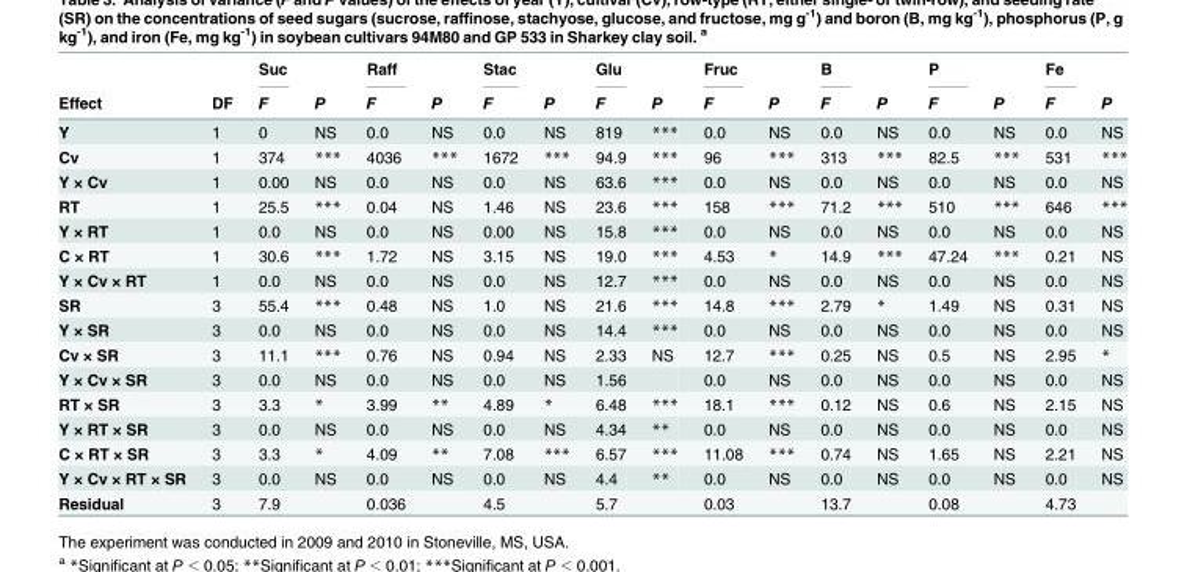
<table><thead><tr><td rowspan="2">Effect</td><td rowspan="2">DF</td><td rowspan="2">Suc F</td><td rowspan="2">P</td><td rowspan="2">Raff F</td><td rowspan="2">P</td><td rowspan="2">Stac F</td><td rowspan="2">P</td><td rowspan="2">Glu F</td><td rowspan="2">P</td><td rowspan="2">Fruc F</td><td rowspan="2">P</td><td rowspan="2">B F</td><td rowspan="2">P</td><td rowspan="2">P F</td><td rowspan="2">P</td><td rowspan="2">Fe F</td><td rowspan="2">P</td></tr><tr></tr></thead><tbody><tr><td>Y</td><td>1</td><td>0</td><td>NS</td><td>0.0</td><td>NS</td><td>0.0</td><td>NS</td><td>819</td><td>***</td><td>0.0</td><td>NS</td><td>0.0</td><td>NS</td><td>0.0</td><td>NS</td><td>0.0</td><td>NS</td></tr><tr><td>Cv</td><td>1</td><td>374</td><td>***</td><td>4036</td><td>***</td><td>1672</td><td>***</td><td>94.9</td><td>***</td><td>96</td><td>***</td><td>313</td><td>***</td><td>82.5</td><td>***</td><td>531</td><td>***</td></tr><tr><td>Y × Cv</td><td>1</td><td>0.00</td><td>NS</td><td>0.0</td><td>NS</td><td>0.0</td><td>NS</td><td>63.6</td><td>***</td><td>0.0</td><td>NS</td><td>0.0</td><td>NS</td><td>0.0</td><td>NS</td><td>0.0</td><td>NS</td></tr><tr><td>RT</td><td>1</td><td>25.5</td><td>***</td><td>0.04</td><td>NS</td><td>1.46</td><td>NS</td><td>23.6</td><td>***</td><td>158</td><td>***</td><td>71.2</td><td>***</td><td>510</td><td>***</td><td>646</td><td>***</td></tr><tr><td>Y × RT</td><td>1</td><td>0.0</td><td>NS</td><td>0.0</td><td>NS</td><td>0.00</td><td>NS</td><td>15.8</td><td>***</td><td>0.0</td><td>NS</td><td>0.0</td><td>NS</td><td>0.0</td><td>NS</td><td>0.0</td><td>NS</td></tr><tr><td>C × RT</td><td>1</td><td>30.6</td><td>***</td><td>1.72</td><td>NS</td><td>3.15</td><td>NS</td><td>19.0</td><td>***</td><td>4.53</td><td>*</td><td>14.9</td><td>***</td><td>47.24</td><td>***</td><td>0.21</td><td>NS</td></tr><tr><td>Y × Cv × RT</td><td>1</td><td>0.0</td><td>NS</td><td>0.0</td><td>NS</td><td>0.0</td><td>NS</td><td>12.7</td><td>***</td><td>0.0</td><td>NS</td><td>0.0</td><td>NS</td><td>0.0</td><td>NS</td><td>0.0</td><td>NS</td></tr><tr><td>SR</td><td>3</td><td>55.4</td><td>***</td><td>0.48</td><td>NS</td><td>1.0</td><td>NS</td><td>21.6</td><td>***</td><td>14.8</td><td>***</td><td>2.79</td><td>*</td><td>1.49</td><td>NS</td><td>0.31</td><td>NS</td></tr><tr><td>Y × SR</td><td>3</td><td>0.0</td><td>NS</td><td>0.0</td><td>NS</td><td>0.0</td><td>NS</td><td>14.4</td><td>***</td><td>0.0</td><td>NS</td><td>0.0</td><td>NS</td><td>0.0</td><td>NS</td><td>0.0</td><td>NS</td></tr><tr><td>Cv × SR</td><td>3</td><td>11.1</td><td>***</td><td>0.76</td><td>NS</td><td>0.94</td><td>NS</td><td>2.33</td><td>NS</td><td>12.7</td><td>***</td><td>0.25</td><td>NS</td><td>0.5</td><td>NS</td><td>2.95</td><td>*</td></tr><tr><td>Y × Cv × SR</td><td>3</td><td>0.0</td><td>NS</td><td>0.0</td><td>NS</td><td>0.0</td><td>NS</td><td>1.56</td><td></td><td>0.0</td><td>NS</td><td>0.0</td><td>NS</td><td>0.0</td><td>NS</td><td>0.0</td><td>NS</td></tr><tr><td>RT × SR</td><td>3</td><td>3.3</td><td>*</td><td>3.99</td><td>**</td><td>4.89</td><td>*</td><td>6.48</td><td>***</td><td>18.1</td><td>***</td><td>0.12</td><td>NS</td><td>0.6</td><td>NS</td><td>2.15</td><td>NS</td></tr><tr><td>Y × RT × SR</td><td>3</td><td>0.0</td><td>NS</td><td>0.0</td><td>NS</td><td>0.0</td><td>NS</td><td>4.34</td><td>**</td><td>0.0</td><td>NS</td><td>0.0</td><td>NS</td><td>0.0</td><td>NS</td><td>0.0</td><td>NS</td></tr><tr><td>C × RT × SR</td><td>3</td><td>3.3</td><td>*</td><td>4.09</td><td>**</td><td>7.08</td><td>***</td><td>6.57</td><td>***</td><td>11.08</td><td>***</td><td>0.74</td><td>NS</td><td>1.65</td><td>NS</td><td>2.21</td><td>NS</td></tr><tr><td>Y × Cv × RT × SR</td><td>3</td><td>0.0</td><td>NS</td><td>0.0</td><td>NS</td><td>0.0</td><td>NS</td><td>4.4</td><td>**</td><td>0.0</td><td>NS</td><td>0.0</td><td>NS</td><td>0.0</td><td>NS</td><td>0.0</td><td>NS</td></tr><tr><td>Residual</td><td>3</td><td>7.9</td><td></td><td>0.036</td><td></td><td>4.5</td><td></td><td>5.7</td><td></td><td>0.03</td><td></td><td>13.7</td><td></td><td>0.08</td><td></td><td>4.73</td><td></td></tr></tbody></table>